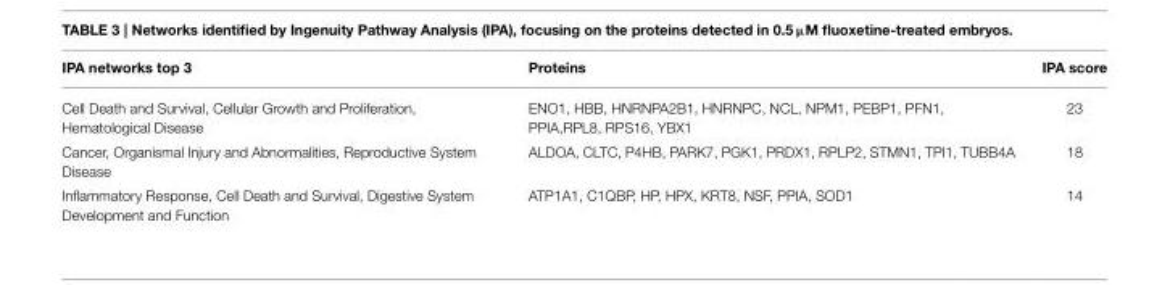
<table><thead><tr><td>IPA networks top 3</td><td>Proteins</td><td>IPA score</td></tr></thead><tbody><tr><td>Cell Death and Survival, Cellular Growth and Proliferation, Hematological Disease</td><td>ENO1, HBB, HNRNPA2B1, HNRNPC, NCL, NPM1, PEBP1, PFN1, PPIA,RPL8, RPS16, YBX1</td><td>23</td></tr><tr><td>Cancer, Organismal Injury and Abnormalities, Reproductive System Disease</td><td>ALDOA, CLTC, P4HB, PARK7, PGK1, PRDX1, RPLP2, STMN1, TPI1, TUBB4A</td><td>18</td></tr><tr><td>Inflammatory Response, Cell Death and Survival, Digestive System Development and Function</td><td>ATP1A1, C1QBP, HP, HPX, KRT8, NSF, PPIA, SOD1</td><td>14</td></tr></tbody></table>